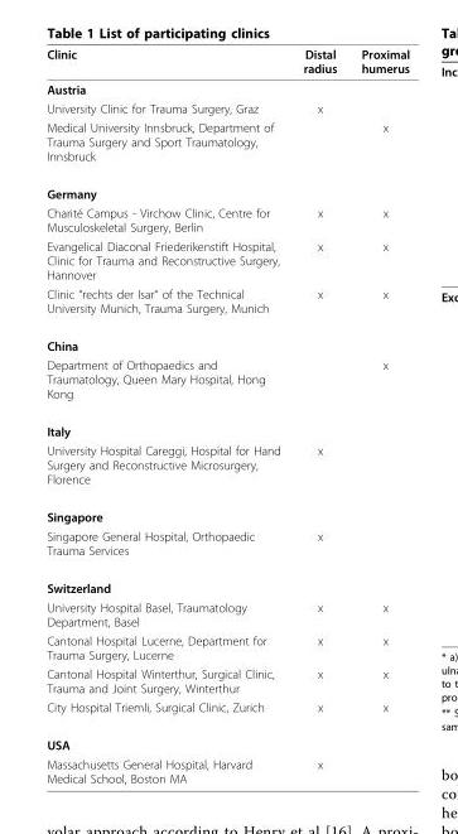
<table><thead><tr><td>Clinic</td><td>Distal radius</td><td>Proximal humerus</td></tr></thead><tbody><tr><td colspan="3">Austria</td></tr><tr><td>University Clinic for Trauma Surgery, Graz</td><td>x</td><td></td></tr><tr><td>Medical University Innsbruck, Department of Trauma Surgery and Sport Traumatology, Innsbruck</td><td></td><td>x</td></tr><tr><td colspan="3">Germany</td></tr><tr><td>Charité Campus - Virchow Clinic, Centre for Musculoskeletal Surgery, Berlin</td><td>x</td><td>x</td></tr><tr><td>Evangelical Diaconal Friederikenstift Hospital, Clinic for Trauma and Reconstructive Surgery, Hannover</td><td>x</td><td>x</td></tr><tr><td>Clinic “rechts der Isar“ of the Technical University Munich, Trauma Surgery, Munich</td><td>x</td><td>x</td></tr><tr><td colspan="3">China</td></tr><tr><td>Department of Orthopaedics and Traumatology, Queen Mary Hospital, Hong Kong</td><td></td><td>x</td></tr><tr><td colspan="3">Italy</td></tr><tr><td>University Hospital Careggi, Hospital for Hand Surgery and Reconstructive Microsurgery, Florence</td><td>x</td><td></td></tr><tr><td colspan="3">Singapore</td></tr><tr><td>Singapore General Hospital, Orthopaedic Trauma Services</td><td>x</td><td></td></tr><tr><td colspan="3">Switzerland</td></tr><tr><td>University Hospital Basel, Traumatology Department, Basel</td><td>x</td><td>x</td></tr><tr><td>Cantonal Hospital Lucerne, Department for Trauma Surgery, Lucerne</td><td>x</td><td>x</td></tr><tr><td>Cantonal Hospital Winterthur, Surgical Clinic, Trauma and Joint Surgery, Winterthur</td><td>x</td><td>x</td></tr><tr><td>City Hospital Triemli, Surgical Clinic, Zurich</td><td>x</td><td>x</td></tr><tr><td colspan="3">USA</td></tr><tr><td>Massachusetts General Hospital, Harvard Medical School, Boston MA</td><td>x</td><td></td></tr></tbody></table>